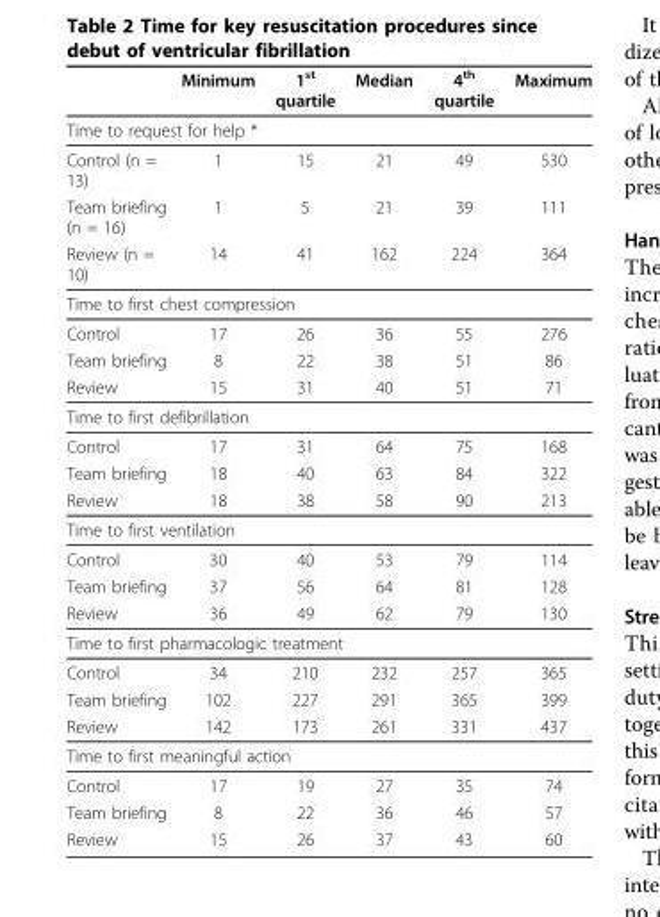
<table><thead><tr><td></td><td>Minimum</td><td>1<sup>st</sup> quartile</td><td>Median</td><td>4<sup>th</sup> quartile</td><td>Maximum</td></tr></thead><tbody><tr><td colspan="6">Time to request for help *</td></tr><tr><td>Control (n = 13)</td><td>1</td><td>15</td><td>21</td><td>49</td><td>530</td></tr><tr><td>Team briefing (n = 16)</td><td>1</td><td>5</td><td>21</td><td>39</td><td>111</td></tr><tr><td>Review (n = 10)</td><td>14</td><td>41</td><td>162</td><td>224</td><td>364</td></tr><tr><td colspan="6">Time to first chest compression</td></tr><tr><td>Control</td><td>17</td><td>26</td><td>36</td><td>55</td><td>276</td></tr><tr><td>Team briefing</td><td>8</td><td>22</td><td>38</td><td>51</td><td>86</td></tr><tr><td>Review</td><td>15</td><td>31</td><td>40</td><td>51</td><td>71</td></tr><tr><td colspan="6">Time to first defibrillation</td></tr><tr><td>Control</td><td>17</td><td>31</td><td>64</td><td>75</td><td>168</td></tr><tr><td>Team briefing</td><td>18</td><td>40</td><td>63</td><td>84</td><td>322</td></tr><tr><td>Review</td><td>18</td><td>38</td><td>58</td><td>90</td><td>213</td></tr><tr><td colspan="6">Time to first ventilation</td></tr><tr><td>Control</td><td>30</td><td>40</td><td>53</td><td>79</td><td>114</td></tr><tr><td>Team briefing</td><td>37</td><td>56</td><td>64</td><td>81</td><td>128</td></tr><tr><td>Review</td><td>36</td><td>49</td><td>62</td><td>79</td><td>130</td></tr><tr><td colspan="6">Time to first pharmacologic treatment</td></tr><tr><td>Control</td><td>34</td><td>210</td><td>232</td><td>257</td><td>365</td></tr><tr><td>Team briefing</td><td>102</td><td>227</td><td>291</td><td>365</td><td>399</td></tr><tr><td>Review</td><td>142</td><td>173</td><td>261</td><td>331</td><td>437</td></tr><tr><td colspan="6">Time to first meaningful action</td></tr><tr><td>Control</td><td>17</td><td>19</td><td>27</td><td>35</td><td>74</td></tr><tr><td>Team briefing</td><td>8</td><td>22</td><td>36</td><td>46</td><td>57</td></tr><tr><td>Review</td><td>15</td><td>26</td><td>37</td><td>43</td><td>60</td></tr></tbody></table>